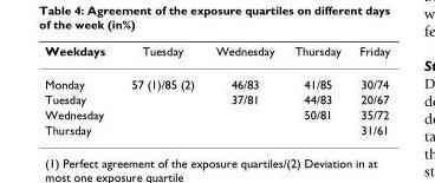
<table><thead><tr><td>Weekdays</td><td>Tuesday</td><td>Wednesday</td><td>Thursday</td><td>Friday</td></tr></thead><tbody><tr><td>Monday</td><td>57 (1)/85 (2)</td><td>46/83</td><td>41/85</td><td>30/74</td></tr><tr><td>Tuesday</td><td></td><td>37/81</td><td>44/83</td><td>20/67</td></tr><tr><td>Wednesday</td><td></td><td></td><td>50/81</td><td>35/72</td></tr><tr><td>Thursday</td><td></td><td></td><td></td><td>31/61</td></tr></tbody></table>